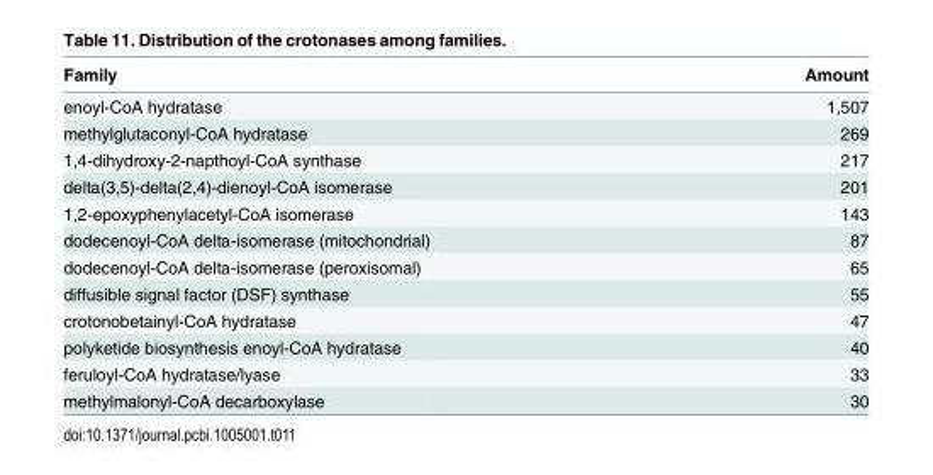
<table><thead><tr><td>Family</td><td>Amount</td></tr></thead><tbody><tr><td>enoyl-CoA hydratase</td><td>1,507</td></tr><tr><td>methylglutaconyl-CoA hydratase</td><td>269</td></tr><tr><td>1,4-dihydroxy-2-napthoyl-CoA synthase</td><td>217</td></tr><tr><td>delta(3,5)-delta(2,4)-dienoyl-CoA isomerase</td><td>201</td></tr><tr><td>1,2-epoxyphenylacetyl-CoA isomerase</td><td>143</td></tr><tr><td>dodecenoyl-CoA delta-isomerase (mitochondrial)</td><td>87</td></tr><tr><td>dodecenoyl-CoA delta-isomerase (peroxisomal)</td><td>65</td></tr><tr><td>diffusible signal factor (DSF) synthase</td><td>55</td></tr><tr><td>crotonobetainyl-CoA hydratase</td><td>47</td></tr><tr><td>polyketide biosynthesis enoyl-CoA hydratase</td><td>40</td></tr><tr><td>feruloyl-CoA hydratase/lyase</td><td>33</td></tr><tr><td>methylmalonyl-CoA decarboxylase</td><td>30</td></tr></tbody></table>